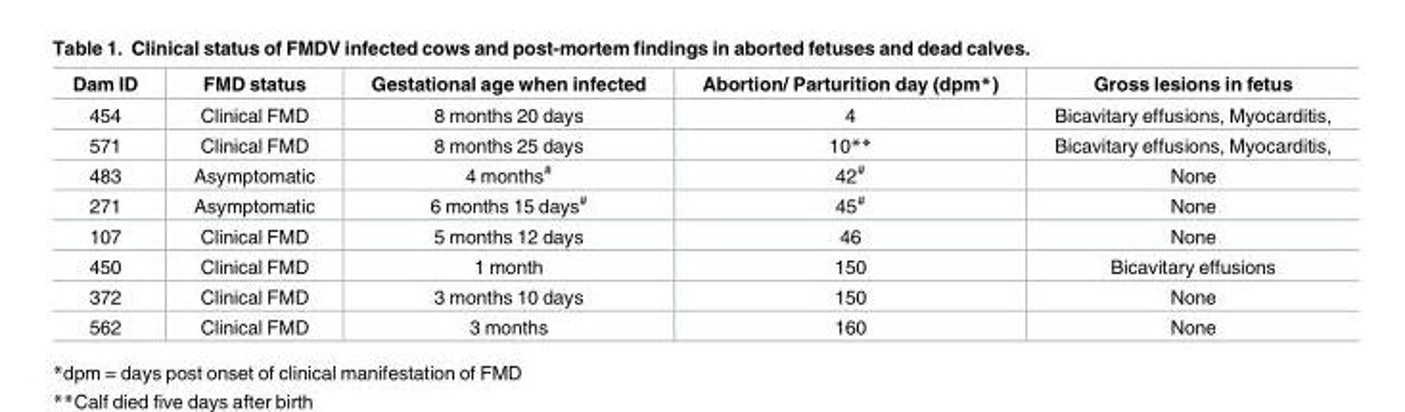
<table><thead><tr><td>Dam ID</td><td>FMD status</td><td>Gestational age when infected</td><td>Abortion/ Parturition day (dpm*)</td><td>Gross lesions in fetus</td></tr></thead><tbody><tr><td>454</td><td>Clinical FMD</td><td>8 months 20 days</td><td>4</td><td>Bicavitary effusions, Myocarditis,</td></tr><tr><td>571</td><td>Clinical FMD</td><td>8 months 25 days</td><td>10**</td><td>Bicavitary effusions, Myocarditis,</td></tr><tr><td>483</td><td>Asymptomatic</td><td>4 months<sup>#</sup></td><td>42<sup>#</sup></td><td>None</td></tr><tr><td>271</td><td>Asymptomatic</td><td>6 months 15 days<sup>#</sup></td><td>45<sup>#</sup></td><td>None</td></tr><tr><td>107</td><td>Clinical FMD</td><td>5 months 12 days</td><td>46</td><td>None</td></tr><tr><td>450</td><td>Clinical FMD</td><td>1 month</td><td>150</td><td>Bicavitary effusions</td></tr><tr><td>372</td><td>Clinical FMD</td><td>3 months 10 days</td><td>150</td><td>None</td></tr><tr><td>562</td><td>Clinical FMD</td><td>3 months</td><td>160</td><td>None</td></tr></tbody></table>